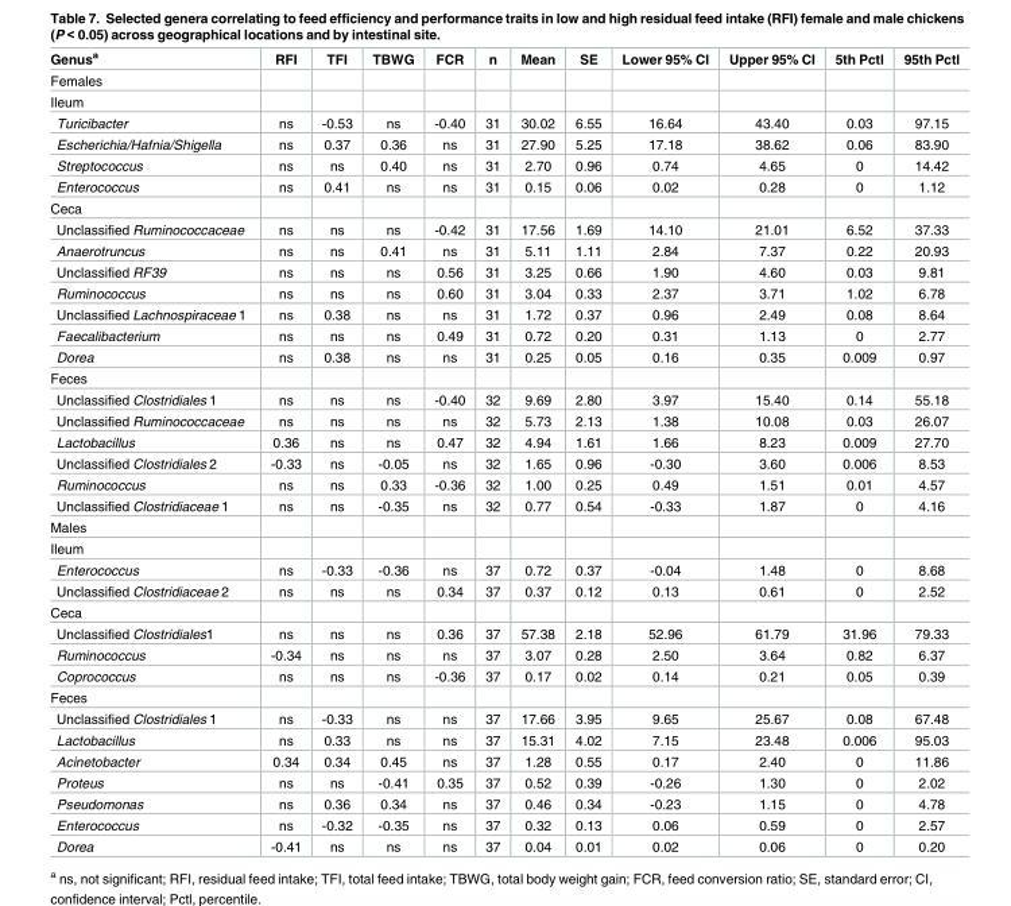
<table><thead><tr><td>Genus<sup>a</sup></td><td>RFI</td><td>TFI</td><td>TBWG</td><td>FCR</td><td>n</td><td>Mean</td><td>SE</td><td>Lower 95% CI</td><td>Upper 95% CI</td><td>5th Pctl</td><td>95th Pctl</td></tr></thead><tbody><tr><td colspan="12">Females</td></tr><tr><td colspan="12">Ileum</td></tr><tr><td>Turicibacter</td><td>ns</td><td>-0.53</td><td>ns</td><td>-0.40</td><td>31</td><td>30.02</td><td>6.55</td><td>16.64</td><td>43.40</td><td>0.03</td><td>97.15</td></tr><tr><td>Escherichia/Hafnia/Shigella</td><td>ns</td><td>0.37</td><td>0.36</td><td>ns</td><td>31</td><td>27.90</td><td>5.25</td><td>17.18</td><td>38.62</td><td>0.06</td><td>83.90</td></tr><tr><td>Streptococcus</td><td>ns</td><td>ns</td><td>0.40</td><td>ns</td><td>31</td><td>2.70</td><td>0.96</td><td>0.74</td><td>4.65</td><td>0</td><td>14.42</td></tr><tr><td>Enterococcus</td><td>ns</td><td>0.41</td><td>ns</td><td>ns</td><td>31</td><td>0.15</td><td>0.06</td><td>0.02</td><td>0.28</td><td>0</td><td>1.12</td></tr><tr><td colspan="12">Ceca</td></tr><tr><td>Unclassified Ruminococcaceae</td><td>ns</td><td>ns</td><td>ns</td><td>-0.42</td><td>31</td><td>17.56</td><td>1.69</td><td>14.10</td><td>21.01</td><td>6.52</td><td>37.33</td></tr><tr><td>Anaerotruncus</td><td>ns</td><td>ns</td><td>0.41</td><td>ns</td><td>31</td><td>5.11</td><td>1.11</td><td>2.84</td><td>7.37</td><td>0.22</td><td>20.93</td></tr><tr><td>Unclassified RF39</td><td>ns</td><td>ns</td><td>ns</td><td>0.56</td><td>31</td><td>3.25</td><td>0.66</td><td>1.90</td><td>4.60</td><td>0.03</td><td>9.81</td></tr><tr><td>Ruminococcus</td><td>ns</td><td>ns</td><td>ns</td><td>0.60</td><td>31</td><td>3.04</td><td>0.33</td><td>2.37</td><td>3.71</td><td>1.02</td><td>6.78</td></tr><tr><td>Unclassified Lachnospiraceae 1</td><td>ns</td><td>0.38</td><td>ns</td><td>ns</td><td>31</td><td>1.72</td><td>0.37</td><td>0.96</td><td>2.49</td><td>0.08</td><td>8.64</td></tr><tr><td>Faecalibacterium</td><td>ns</td><td>ns</td><td>ns</td><td>0.49</td><td>31</td><td>0.72</td><td>0.20</td><td>0.31</td><td>1.13</td><td>0</td><td>2.77</td></tr><tr><td>Dorea</td><td>ns</td><td>0.38</td><td>ns</td><td>ns</td><td>31</td><td>0.25</td><td>0.05</td><td>0.16</td><td>0.35</td><td>0.009</td><td>0.97</td></tr><tr><td colspan="12">Feces</td></tr><tr><td>Unclassified Clostridiales 1</td><td>ns</td><td>ns</td><td>ns</td><td>-0.40</td><td>32</td><td>9.69</td><td>2.80</td><td>3.97</td><td>15.40</td><td>0.14</td><td>55.18</td></tr><tr><td>Unclassified Ruminococcaceae</td><td>ns</td><td>ns</td><td>ns</td><td>ns</td><td>32</td><td>5.73</td><td>2.13</td><td>1.38</td><td>10.08</td><td>0.03</td><td>26.07</td></tr><tr><td>Lactobacillus</td><td>0.36</td><td>ns</td><td>ns</td><td>0.47</td><td>32</td><td>4.94</td><td>1.61</td><td>1.66</td><td>8.23</td><td>0.009</td><td>27.70</td></tr><tr><td>Unclassified Clostridiales 2</td><td>-0.33</td><td>ns</td><td>-0.05</td><td>ns</td><td>32</td><td>1.65</td><td>0.96</td><td>-0.30</td><td>3.60</td><td>0.006</td><td>8.53</td></tr><tr><td>Ruminococcus</td><td>ns</td><td>ns</td><td>0.33</td><td>-0.36</td><td>32</td><td>1.00</td><td>0.25</td><td>0.49</td><td>1.51</td><td>0.01</td><td>4.57</td></tr><tr><td>Unclassified Clostridiaceae 1</td><td>ns</td><td>ns</td><td>-0.35</td><td>ns</td><td>32</td><td>0.77</td><td>0.54</td><td>-0.33</td><td>1.87</td><td>0</td><td>4.16</td></tr><tr><td colspan="12">Males</td></tr><tr><td colspan="12">Ileum</td></tr><tr><td>Enterococcus</td><td>ns</td><td>-0.33</td><td>-0.36</td><td>ns</td><td>37</td><td>0.72</td><td>0.37</td><td>-0.04</td><td>1.48</td><td>0</td><td>8.68</td></tr><tr><td>Unclassified Clostridiaceae 2</td><td>ns</td><td>ns</td><td>ns</td><td>0.34</td><td>37</td><td>0.37</td><td>0.12</td><td>0.13</td><td>0.61</td><td>0</td><td>2.52</td></tr><tr><td colspan="12">Ceca</td></tr><tr><td>Unclassified Clostridiales1</td><td>ns</td><td>ns</td><td>ns</td><td>0.36</td><td>37</td><td>57.38</td><td>2.18</td><td>52.96</td><td>61.79</td><td>31.96</td><td>79.33</td></tr><tr><td>Ruminococcus</td><td>-0.34</td><td>ns</td><td>ns</td><td>ns</td><td>37</td><td>3.07</td><td>0.28</td><td>2.50</td><td>3.64</td><td>0.82</td><td>6.37</td></tr><tr><td>Coprococcus</td><td>ns</td><td>ns</td><td>ns</td><td>-0.36</td><td>37</td><td>0.17</td><td>0.02</td><td>0.14</td><td>0.21</td><td>0.05</td><td>0.39</td></tr><tr><td colspan="12">Feces</td></tr><tr><td>Unclassified Clostridiales 1</td><td>ns</td><td>-0.33</td><td>ns</td><td>ns</td><td>37</td><td>17.66</td><td>3.95</td><td>9.65</td><td>25.67</td><td>0.08</td><td>67.48</td></tr><tr><td>Lactobacillus</td><td>ns</td><td>0.33</td><td>ns</td><td>ns</td><td>37</td><td>15.31</td><td>4.02</td><td>7.15</td><td>23.48</td><td>0.006</td><td>95.03</td></tr><tr><td>Acinetobacter</td><td>0.34</td><td>0.34</td><td>0.45</td><td>ns</td><td>37</td><td>1.28</td><td>0.55</td><td>0.17</td><td>2.40</td><td>0</td><td>11.86</td></tr><tr><td>Proteus</td><td>ns</td><td>ns</td><td>-0.41</td><td>0.35</td><td>37</td><td>0.52</td><td>0.39</td><td>-0.26</td><td>1.30</td><td>0</td><td>2.02</td></tr><tr><td>Pseudomonas</td><td>ns</td><td>0.36</td><td>0.34</td><td>ns</td><td>37</td><td>0.46</td><td>0.34</td><td>-0.23</td><td>1.15</td><td>0</td><td>4.78</td></tr><tr><td>Enterococcus</td><td>ns</td><td>-0.32</td><td>-0.35</td><td>ns</td><td>37</td><td>0.32</td><td>0.13</td><td>0.06</td><td>0.59</td><td>0</td><td>2.57</td></tr><tr><td>Dorea</td><td>-0.41</td><td>ns</td><td>ns</td><td>ns</td><td>37</td><td>0.04</td><td>0.01</td><td>0.02</td><td>0.06</td><td>0</td><td>0.20</td></tr></tbody></table>